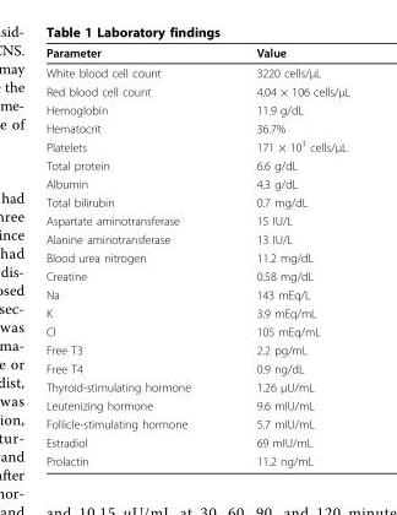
<table><thead><tr><td>Parameter</td><td>Value</td></tr></thead><tbody><tr><td>White blood cell count</td><td>3220 cells/μL</td></tr><tr><td>Red blood cell count</td><td>4.04 × 106 cells/μL</td></tr><tr><td>Hemoglobin</td><td>11.9 g/dL</td></tr><tr><td>Hematocrit</td><td>36.7%</td></tr><tr><td>Platelets</td><td>171 × 10<sup>3</sup> cells/μL</td></tr><tr><td>Total protein</td><td>6.6 g/dL</td></tr><tr><td>Albumin</td><td>4.3 g/dL</td></tr><tr><td>Total bilirubin</td><td>0.7 mg/dL</td></tr><tr><td>Aspartate aminotransferase</td><td>15 IU/L</td></tr><tr><td>Alanine aminotransferase</td><td>13 IU/L</td></tr><tr><td>Blood urea nitrogen</td><td>11.2 mg/dL</td></tr><tr><td>Creatine</td><td>0.58 mg/dL</td></tr><tr><td>Na</td><td>143 mEq/L</td></tr><tr><td>K</td><td>3.9 mEq/mL</td></tr><tr><td>Cl</td><td>105 mEq/mL</td></tr><tr><td>Free T3</td><td>2.2 pg/mL</td></tr><tr><td>Free T4</td><td>0.9 ng/dL</td></tr><tr><td>Thyroid-stimulating hormone</td><td>1.26 μU/mL</td></tr><tr><td>Leutenizing hormone</td><td>9.6 mIU/mL</td></tr><tr><td>Follicle-stimulating hormone</td><td>5.7 mIU/mL</td></tr><tr><td>Estradiol</td><td>69 mIU/mL</td></tr><tr><td>Prolactin</td><td>11.2 ng/mL</td></tr></tbody></table>